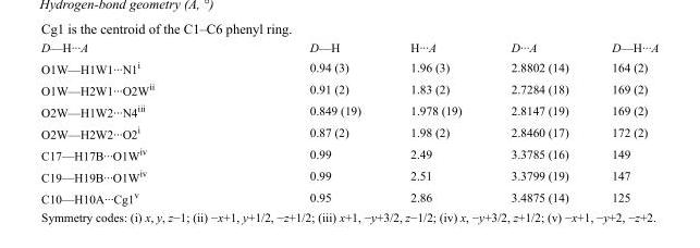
<table><tbody><tr><td>D—H···A</td><td>D—H</td><td>H···A</td><td>D···A</td><td>D—H···A</td></tr><tr><td>O1W—H1W1···N1<sup>i</sup></td><td>0.94 (3)</td><td>1.96 (3)</td><td>2.8802 (14)</td><td>164 (2)</td></tr><tr><td>O1W—H2W1···O2W<sup>ii</sup></td><td>0.91 (2)</td><td>1.83 (2)</td><td>2.7284 (18)</td><td>169 (2)</td></tr><tr><td>O2W—H1W2···N4<sup>iii</sup></td><td>0.849 (19)</td><td>1.978 (19)</td><td>2.8147 (19)</td><td>169 (2)</td></tr><tr><td>O2W—H2W2···O2<sup>i</sup></td><td>0.87 (2)</td><td>1.98 (2)</td><td>2.8460 (17)</td><td>172 (2)</td></tr><tr><td>C17—H17B···O1W<sup>iv</sup></td><td>0.99</td><td>2.49</td><td>3.3785 (16)</td><td>149</td></tr><tr><td>C19—H19B···O1W<sup>iv</sup></td><td>0.99</td><td>2.51</td><td>3.3799 (19)</td><td>147</td></tr><tr><td>C10—H10A···Cg1<sup>v</sup></td><td>0.95</td><td>2.86</td><td>3.4875 (14)</td><td>125</td></tr></tbody></table>